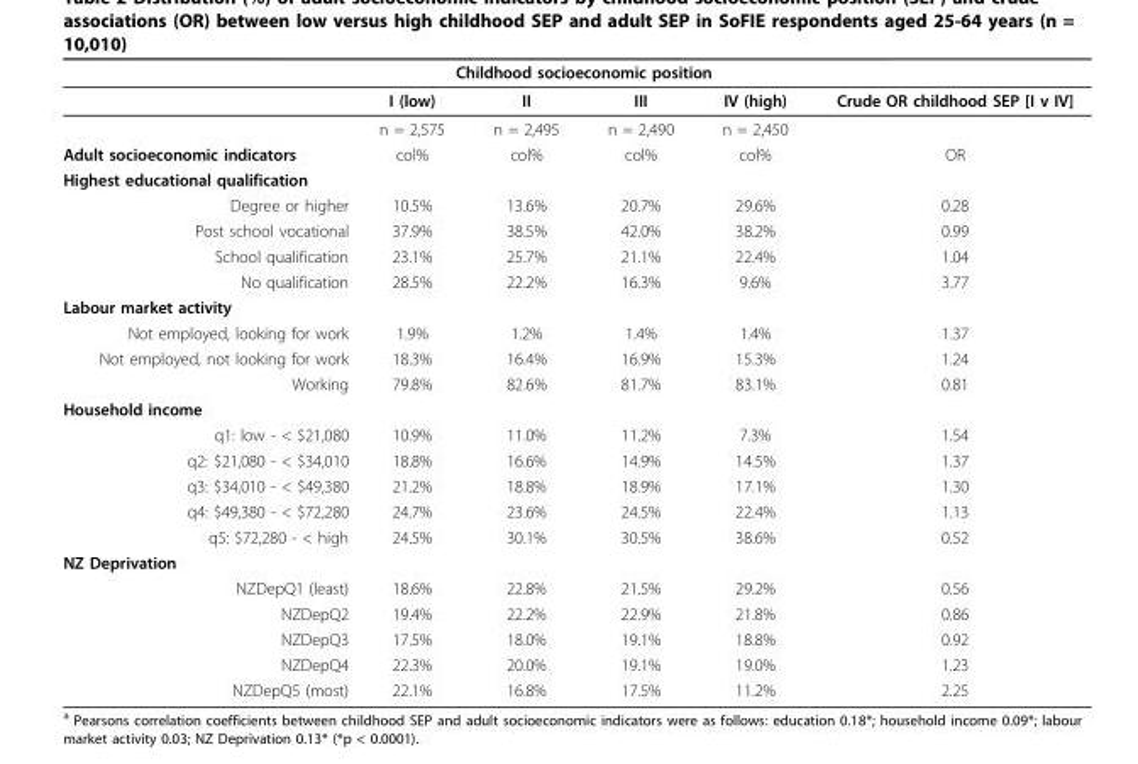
<table><thead><tr><td rowspan="2"></td><td colspan="4">Childhood socioeconomic position</td><td rowspan="2">Crude OR childhood SEP [I v IV]</td></tr><tr><td>I (low)</td><td>II</td><td>III</td><td>IV (high)</td></tr></thead><tbody><tr><td></td><td>n = 2,575</td><td>n = 2,495</td><td>n = 2,490</td><td>n = 2,450</td><td></td></tr><tr><td>Adult socioeconomic indicators</td><td>col%</td><td>col%</td><td>col%</td><td>col%</td><td>OR</td></tr><tr><td colspan="6">Highest educational qualification</td></tr><tr><td>Degree or higher</td><td>10.5%</td><td>13.6%</td><td>20.7%</td><td>29.6%</td><td>0.28</td></tr><tr><td>Post school vocational</td><td>37.9%</td><td>38.5%</td><td>42.0%</td><td>38.2%</td><td>0.99</td></tr><tr><td>School qualification</td><td>23.1%</td><td>25.7%</td><td>21.1%</td><td>22.4%</td><td>1.04</td></tr><tr><td>No qualification</td><td>28.5%</td><td>22.2%</td><td>16.3%</td><td>9.6%</td><td>3.77</td></tr><tr><td colspan="6">Labour market activity</td></tr><tr><td>Not employed, looking for work</td><td>1.9%</td><td>1.2%</td><td>1.4%</td><td>1.4%</td><td>1.37</td></tr><tr><td>Not employed, not looking for work</td><td>18.3%</td><td>16.4%</td><td>16.9%</td><td>15.3%</td><td>1.24</td></tr><tr><td>Working</td><td>79.8%</td><td>82.6%</td><td>81.7%</td><td>83.1%</td><td>0.81</td></tr><tr><td colspan="6">Household income</td></tr><tr><td>q1: low - &lt; $21,080</td><td>10.9%</td><td>11.0%</td><td>11.2%</td><td>7.3%</td><td>1.54</td></tr><tr><td>q2: $21,080 - &lt; $34,010</td><td>18.8%</td><td>16.6%</td><td>14.9%</td><td>14.5%</td><td>1.37</td></tr><tr><td>q3: $34,010 - &lt; $49,380</td><td>21.2%</td><td>18.8%</td><td>18.9%</td><td>17.1%</td><td>1.30</td></tr><tr><td>q4: $49,380 - &lt; $72,280</td><td>24.7%</td><td>23.6%</td><td>24.5%</td><td>22.4%</td><td>1.13</td></tr><tr><td>q5: $72,280 - &lt; high</td><td>24.5%</td><td>30.1%</td><td>30.5%</td><td>38.6%</td><td>0.52</td></tr><tr><td colspan="6">NZ Deprivation</td></tr><tr><td>NZDepQ1 (least)</td><td>18.6%</td><td>22.8%</td><td>21.5%</td><td>29.2%</td><td>0.56</td></tr><tr><td>NZDepQ2</td><td>19.4%</td><td>22.2%</td><td>22.9%</td><td>21.8%</td><td>0.86</td></tr><tr><td>NZDepQ3</td><td>17.5%</td><td>18.0%</td><td>19.1%</td><td>18.8%</td><td>0.92</td></tr><tr><td>NZDepQ4</td><td>22.3%</td><td>20.0%</td><td>19.1%</td><td>19.0%</td><td>1.23</td></tr><tr><td>NZDepQ5 (most)</td><td>22.1%</td><td>16.8%</td><td>17.5%</td><td>11.2%</td><td>2.25</td></tr></tbody></table>